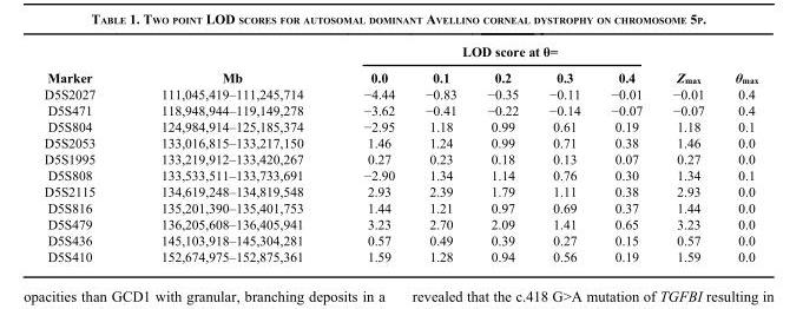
<table><thead><tr><td rowspan="2">Marker</td><td rowspan="2">Mb</td><td colspan="5">LOD score at θ=</td><td rowspan="2">Z<sub>max</sub></td><td rowspan="2">θ<sub>max</sub></td></tr><tr><td>0.0</td><td>0.1</td><td>0.2</td><td>0.3</td><td>0.4</td></tr></thead><tbody><tr><td>D5S2027</td><td>111,045,419–111,245,714</td><td>−4.44</td><td>−0.83</td><td>−0.35</td><td>−0.11</td><td>−0.01</td><td>−0.01</td><td>0.4</td></tr><tr><td>D5S471</td><td>118,948,944–119,149,278</td><td>−3.62</td><td>−0.41</td><td>−0.22</td><td>−0.14</td><td>−0.07</td><td>−0.07</td><td>0.4</td></tr><tr><td>D5S804</td><td>124,984,914–125,185,374</td><td>−2.95</td><td>1.18</td><td>0.99</td><td>0.61</td><td>0.19</td><td>1.18</td><td>0.1</td></tr><tr><td>D5S2053</td><td>133,016,815–133,217,150</td><td>1.46</td><td>1.24</td><td>0.99</td><td>0.71</td><td>0.38</td><td>1.46</td><td>0.0</td></tr><tr><td>D5S1995</td><td>133,219,912–133,420,267</td><td>0.27</td><td>0.23</td><td>0.18</td><td>0.13</td><td>0.07</td><td>0.27</td><td>0.0</td></tr><tr><td>D5S808</td><td>133,533,511–133,733,691</td><td>−2.90</td><td>1.34</td><td>1.14</td><td>0.76</td><td>0.30</td><td>1.34</td><td>0.1</td></tr><tr><td>D5S2115</td><td>134,619,248–134,819,548</td><td>2.93</td><td>2.39</td><td>1.79</td><td>1.11</td><td>0.38</td><td>2.93</td><td>0.0</td></tr><tr><td>D5S816</td><td>135,201,390–135,401,753</td><td>1.44</td><td>1.21</td><td>0.97</td><td>0.69</td><td>0.37</td><td>1.44</td><td>0.0</td></tr><tr><td>D5S479</td><td>136,205,608–136,405,941</td><td>3.23</td><td>2.70</td><td>2.09</td><td>1.41</td><td>0.65</td><td>3.23</td><td>0.0</td></tr><tr><td>D5S436</td><td>145,103,918–145,304,281</td><td>0.57</td><td>0.49</td><td>0.39</td><td>0.27</td><td>0.15</td><td>0.57</td><td>0.0</td></tr><tr><td>D5S410</td><td>152,674,975–152,875,361</td><td>1.59</td><td>1.28</td><td>0.94</td><td>0.56</td><td>0.19</td><td>1.59</td><td>0.0</td></tr></tbody></table>